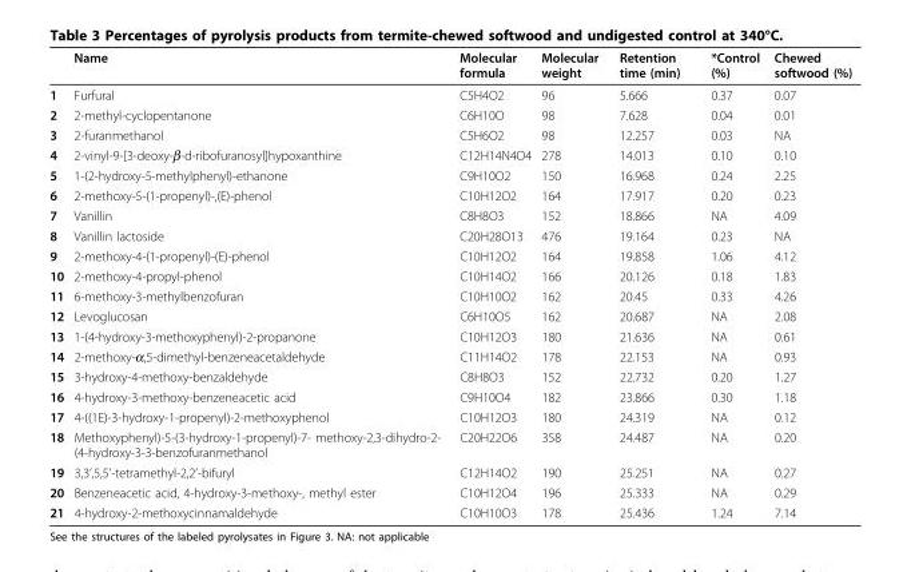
<table><thead><tr><td></td><td>Name</td><td>Molecular formula</td><td>Molecular weight</td><td>Retention time (min)</td><td>*Control (%)</td><td>Chewed softwood (%)</td></tr></thead><tbody><tr><td>1</td><td>Furfural</td><td>C5H4O2</td><td>96</td><td>5.666</td><td>0.37</td><td>0.07</td></tr><tr><td>2</td><td>2-methyl-cyclopentanone</td><td>C6H10O</td><td>98</td><td>7.628</td><td>0.04</td><td>0.01</td></tr><tr><td>3</td><td>2-furanmethanol</td><td>C5H6O2</td><td>98</td><td>12.257</td><td>0.03</td><td>NA</td></tr><tr><td>4</td><td>2-vinyl-9-[3-deoxy-β-d-ribofuranosyl]hypoxanthine</td><td>C12H14N4O4</td><td>278</td><td>14.013</td><td>0.10</td><td>0.10</td></tr><tr><td>5</td><td>1-(2-hydroxy-5-methylphenyl)-ethanone</td><td>C9H10O2</td><td>150</td><td>16.968</td><td>0.24</td><td>2.25</td></tr><tr><td>6</td><td>2-methoxy-5-(1-propenyl)-,(E)-phenol</td><td>C10H12O2</td><td>164</td><td>17.917</td><td>0.20</td><td>0.23</td></tr><tr><td>7</td><td>Vanillin</td><td>C8H8O3</td><td>152</td><td>18.866</td><td>NA</td><td>4.09</td></tr><tr><td>8</td><td>Vanillin lactoside</td><td>C20H28O13</td><td>476</td><td>19.164</td><td>0.23</td><td>NA</td></tr><tr><td>9</td><td>2-methoxy-4-(1-propenyl)-(E)-phenol</td><td>C10H12O2</td><td>164</td><td>19.858</td><td>1.06</td><td>4.12</td></tr><tr><td>10</td><td>2-methoxy-4-propyl-phenol</td><td>C10H14O2</td><td>166</td><td>20.126</td><td>0.18</td><td>1.83</td></tr><tr><td>11</td><td>6-methoxy-3-methylbenzofuran</td><td>C10H10O2</td><td>162</td><td>20.45</td><td>0.33</td><td>4.26</td></tr><tr><td>12</td><td>Levoglucosan</td><td>C6H10O5</td><td>162</td><td>20.687</td><td>NA</td><td>2.08</td></tr><tr><td>13</td><td>1-(4-hydroxy-3-methoxyphenyl)-2-propanone</td><td>C10H12O3</td><td>180</td><td>21.636</td><td>NA</td><td>0.61</td></tr><tr><td>14</td><td>2-methoxy-α,5-dimethyl-benzeneacetaldehyde</td><td>C11H14O2</td><td>178</td><td>22.153</td><td>NA</td><td>0.93</td></tr><tr><td>15</td><td>3-hydroxy-4-methoxy-benzaldehyde</td><td>C8H8O3</td><td>152</td><td>22.732</td><td>0.20</td><td>1.27</td></tr><tr><td>16</td><td>4-hydroxy-3-methoxy-benzeneacetic acid</td><td>C9H10O4</td><td>182</td><td>23.866</td><td>0.30</td><td>1.18</td></tr><tr><td>17</td><td>4-((1E)-3-hydroxy-1-propenyl)-2-methoxyphenol</td><td>C10H12O3</td><td>180</td><td>24.319</td><td>NA</td><td>0.12</td></tr><tr><td>18</td><td>Methoxyphenyl)-5-(3-hydroxy-1-propenyl)-7- methoxy-2,3-dihydro-2- (4-hydroxy-3-3-benzofuranmethanol</td><td>C20H22O6</td><td>358</td><td>24.487</td><td>NA</td><td>0.20</td></tr><tr><td>19</td><td>3,3’,5,5’-tetramethyl-2,2’-bifuryl</td><td>C12H14O2</td><td>190</td><td>25.251</td><td>NA</td><td>0.27</td></tr><tr><td>20</td><td>Benzeneacetic acid, 4-hydroxy-3-methoxy-, methyl ester</td><td>C10H12O4</td><td>196</td><td>25.333</td><td>NA</td><td>0.29</td></tr><tr><td>21</td><td>4-hydroxy-2-methoxycinnamaldehyde</td><td>C10H10O3</td><td>178</td><td>25.436</td><td>1.24</td><td>7.14</td></tr></tbody></table>